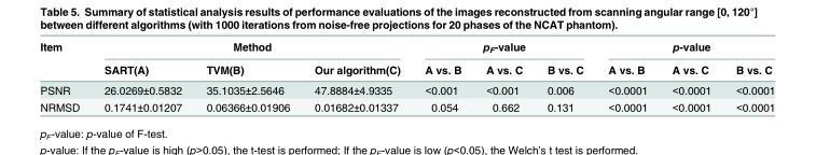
<table><thead><tr><td rowspan="2">Item</td><td colspan="3">Method</td><td colspan="3">p<sub>F</sub>-value</td><td colspan="3">p-value</td></tr><tr><td>SART(A)</td><td>TVM(B)</td><td>Our algorithm(C)</td><td>A vs. B</td><td>A vs. C</td><td>B vs. C</td><td>A vs. B</td><td>A vs. C</td><td>B vs. C</td></tr></thead><tbody><tr><td>PSNR</td><td>26.0269±0.5832</td><td>35.1035±2.5646</td><td>47.8884±4.9335</td><td>&lt;0.001</td><td>&lt;0.001</td><td>0.006</td><td>&lt;0.0001</td><td>&lt;0.0001</td><td>&lt;0.0001</td></tr><tr><td>NRMSD</td><td>0.1741±0.01207</td><td>0.06366±0.01906</td><td>0.01682±0.01337</td><td>0.054</td><td>0.662</td><td>0.131</td><td>&lt;0.0001</td><td>&lt;0.0001</td><td>&lt;0.0001</td></tr></tbody></table>